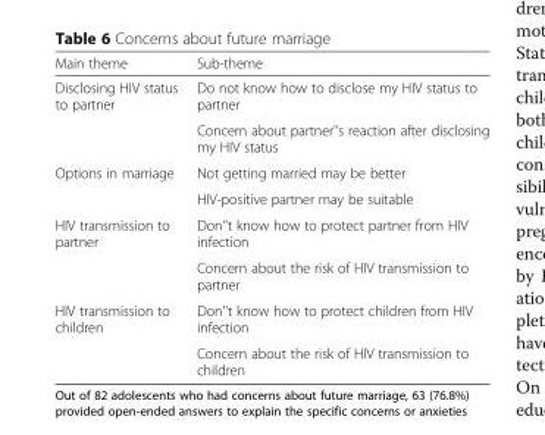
<table><thead><tr><td>Main theme</td><td>Sub-theme</td></tr></thead><tbody><tr><td rowspan="2">Disclosing HIV status to partner</td><td>Do not know how to disclose my HIV status to partner</td></tr><tr><td>Concern about partner&#x27;’s reaction after disclosing my HIV status</td></tr><tr><td rowspan="2">Options in marriage</td><td>Not getting married may be better</td></tr><tr><td>HIV-positive partner may be suitable</td></tr><tr><td rowspan="2">HIV transmission to partner</td><td>Don&#x27;’t know how to protect partner from HIV infection</td></tr><tr><td>Concern about the risk of HIV transmission to partner</td></tr><tr><td rowspan="2">HIV transmission to children</td><td>Don&#x27;’t know how to protect children from HIV infection</td></tr><tr><td>Concern about the risk of HIV transmission to children</td></tr></tbody></table>